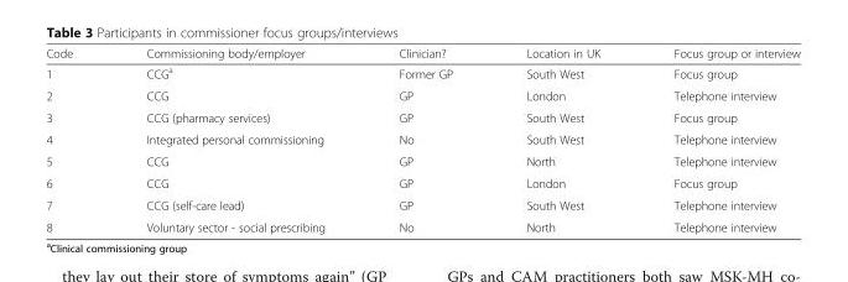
<table><thead><tr><td>Code</td><td>Commissioning body/employer</td><td>Clinician?</td><td>Location in UK</td><td>Focus group or interview</td></tr></thead><tbody><tr><td>1</td><td>CCG<sup>a</sup></td><td>Former GP</td><td>South West</td><td>Focus group</td></tr><tr><td>2</td><td>CCG</td><td>GP</td><td>London</td><td>Telephone interview</td></tr><tr><td>3</td><td>CCG (pharmacy services)</td><td>GP</td><td>South West</td><td>Focus group</td></tr><tr><td>4</td><td>Integrated personal commissioning</td><td>No</td><td>South West</td><td>Telephone interview</td></tr><tr><td>5</td><td>CCG</td><td>GP</td><td>North</td><td>Telephone interview</td></tr><tr><td>6</td><td>CCG</td><td>GP</td><td>London</td><td>Focus group</td></tr><tr><td>7</td><td>CCG (self-care lead)</td><td>GP</td><td>South West</td><td>Telephone interview</td></tr><tr><td>8</td><td>Voluntary sector - social prescribing</td><td>No</td><td>North</td><td>Telephone interview</td></tr></tbody></table>